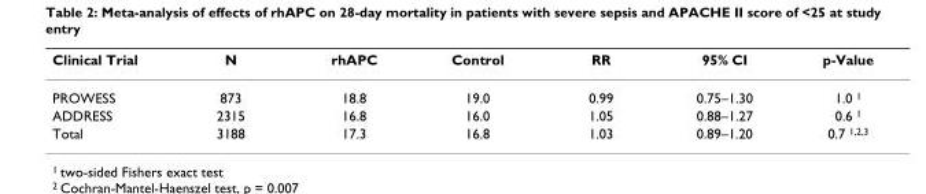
<table><thead><tr><td>Clinical Trial</td><td>N</td><td>rhAPC</td><td>Control</td><td>RR</td><td>95% CI</td><td>p-Value</td></tr></thead><tbody><tr><td>PROWESS</td><td>873</td><td>18.8</td><td>19.0</td><td>0.99</td><td>0.75–1.30</td><td>1.0 <sup>1</sup></td></tr><tr><td>ADDRESS</td><td>2315</td><td>16.8</td><td>16.0</td><td>1.05</td><td>0.88–1.27</td><td>0.6 <sup>1</sup></td></tr><tr><td>Total</td><td>3188</td><td>17.3</td><td>16.8</td><td>1.03</td><td>0.89–1.20</td><td>0.7 <sup>1,2,3</sup></td></tr></tbody></table>